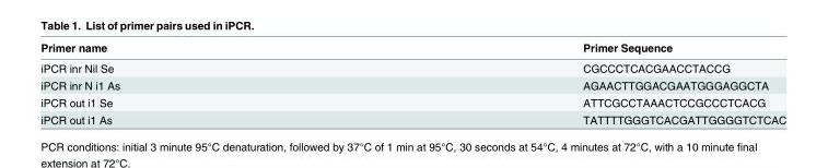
<table><thead><tr><td>Primer name</td><td>Primer Sequence</td></tr></thead><tbody><tr><td>iPCR inr Nil Se</td><td>CGCCCTCACGAACCTACCG</td></tr><tr><td>iPCR inr N i1 As</td><td>AGAACTTGGACGAATGGGAGGCTA</td></tr><tr><td>iPCR out i1 Se</td><td>ATTCGCCTAAACTCCGCCCTCACG</td></tr><tr><td>iPCR out i1 As</td><td>TATTTTGGGTCACGATTGGGGTCTCAC</td></tr></tbody></table>